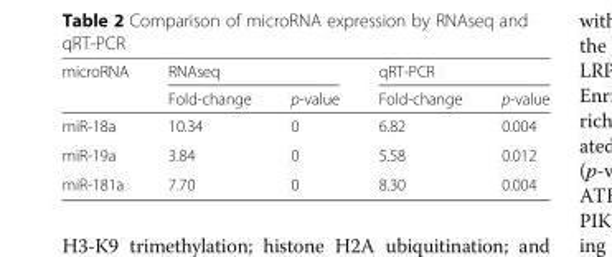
<table><thead><tr><td rowspan="2">microRNA</td><td colspan="2">RNAseq</td><td colspan="2">qRT-PCR</td></tr><tr><td>Fold-change</td><td>p-value</td><td>Fold-change</td><td>p-value</td></tr></thead><tbody><tr><td>miR-18a</td><td>10.34</td><td>0</td><td>6.82</td><td>0.004</td></tr><tr><td>miR-19a</td><td>3.84</td><td>0</td><td>5.58</td><td>0.012</td></tr><tr><td>miR-181a</td><td>7.70</td><td>0</td><td>8.30</td><td>0.004</td></tr></tbody></table>